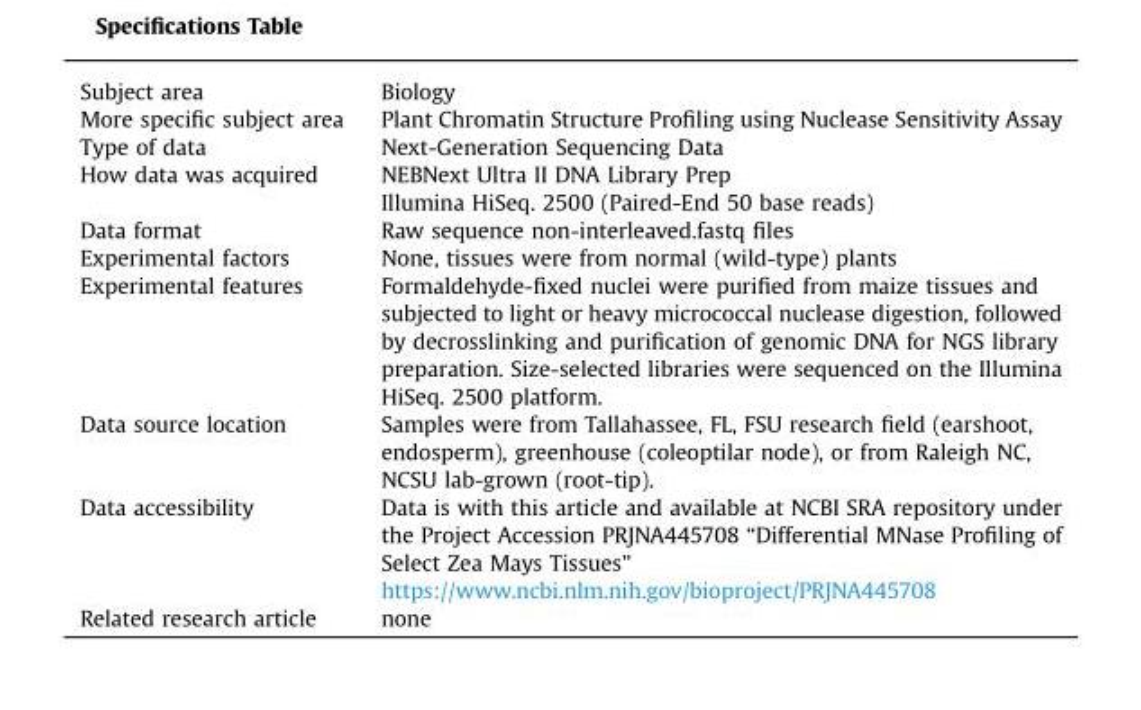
<table><thead><tr><td>Subject area</td><td>Biology</td></tr></thead><tbody><tr><td>More specific subject area</td><td>Plant Chromatin Structure Profiling using Nuclease Sensitivity Assay</td></tr><tr><td>Type of data</td><td>Next-Generation Sequencing Data</td></tr><tr><td rowspan="2">How data was acquired</td><td>NEBNext Ultra II DNA Library Prep</td></tr><tr><td>Illumina HiSeq. 2500 (Paired-End 50 base reads)</td></tr><tr><td>Data format</td><td>Raw sequence non-interleaved.fastq files</td></tr><tr><td>Experimental factors</td><td>None, tissues were from normal (wild-type) plants</td></tr><tr><td>Experimental features</td><td>Formaldehyde-fixed nuclei were purified from maize tissues and subjected to light or heavy micrococcal nuclease digestion, followed by decrosslinking and purification of genomic DNA for NGS library preparation. Size-selected libraries were sequenced on the Illumina HiSeq. 2500 platform.</td></tr><tr><td>Data source location</td><td>Samples were from Tallahassee, FL, FSU research field (earshoot, endosperm), greenhouse (coleoptilar node), or from Raleigh NC, NCSU lab-grown (root-tip).</td></tr><tr><td rowspan="2">Data accessibility</td><td>Data is with this article and available at NCBI SRA repository under the Project Accession PRJNA445708 “Differential MNase Profiling of Select Zea Mays Tissues”</td></tr><tr><td>https://www.ncbi.nlm.nih.gov/bioproject/PRJNA445708</td></tr><tr><td>Related research article</td><td>none</td></tr></tbody></table>